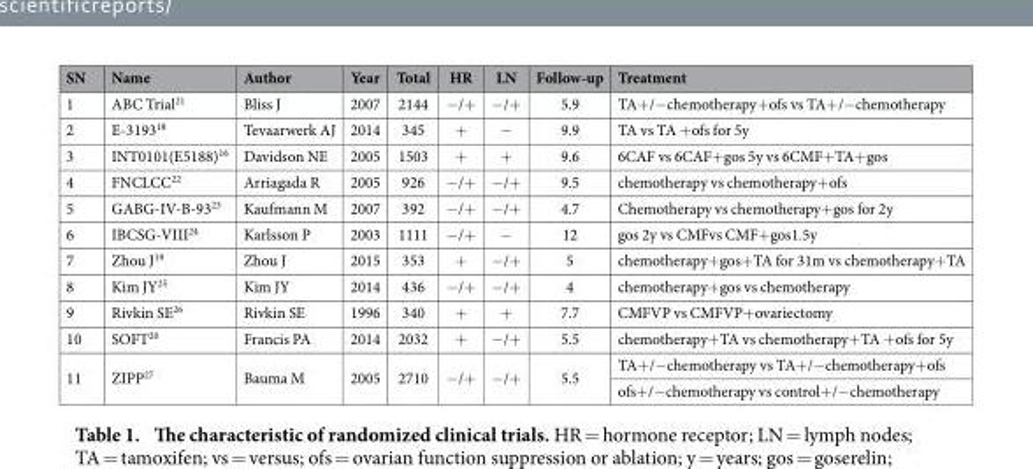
<table><thead><tr><td>SN</td><td>Name</td><td>Author</td><td>Year</td><td>Total</td><td>HR</td><td>LN</td><td>Follow-up</td><td>Treatment</td></tr></thead><tbody><tr><td>1</td><td>ABC Trial<sup>21</sup></td><td>Bliss J</td><td>2007</td><td>2144</td><td>− /+</td><td>− /+</td><td>5.9</td><td>TA+ /− chemotherapy+ ofs vs TA+ /− chemotherapy</td></tr><tr><td>2</td><td>E-3193<sup>18</sup></td><td>Tevaarwerk AJ</td><td>2014</td><td>345</td><td>+</td><td>−</td><td>9.9</td><td>TA vs TA + ofs for 5y</td></tr><tr><td>3</td><td>INT0101(E5188)<sup>16</sup></td><td>Davidson NE</td><td>2005</td><td>1503</td><td>+</td><td>+</td><td>9.6</td><td>6CAF vs 6CAF+ gos 5y vs 6CMF+ TA+ gos</td></tr><tr><td>4</td><td>FNCLCC<sup>22</sup></td><td>Arriagada R</td><td>2005</td><td>926</td><td>− /+</td><td>− /+</td><td>9.5</td><td>chemotherapy vs chemotherapy+ ofs</td></tr><tr><td>5</td><td>GABG-IV-B-93<sup>23</sup></td><td>Kaufmann M</td><td>2007</td><td>392</td><td>− /+</td><td>− /+</td><td>4.7</td><td>Chemotherapy vs chemotherapy+ gos for 2y</td></tr><tr><td>6</td><td>IBCSG-VIII<sup>24</sup></td><td>Karlsson P</td><td>2003</td><td>1111</td><td>− /+</td><td>−</td><td>12</td><td>gos 2y vs CMFvs CMF+ gos1.5y</td></tr><tr><td>7</td><td>Zhou J<sup>19</sup></td><td>Zhou J</td><td>2015</td><td>353</td><td>+</td><td>− /+</td><td>5</td><td>chemotherapy+ gos+ TA for 31m vs chemotherapy+ TA</td></tr><tr><td>8</td><td>Kim JY<sup>25</sup></td><td>Kim JY</td><td>2014</td><td>436</td><td>− /+</td><td>− /+</td><td>4</td><td>chemotherapy+ gos vs chemotherapy</td></tr><tr><td>9</td><td>Rivkin SE<sup>26</sup></td><td>Rivkin SE</td><td>1996</td><td>340</td><td>+</td><td>+</td><td>7.7</td><td>CMFVP vs CMFVP+ ovariectomy</td></tr><tr><td>10</td><td>SOFT<sup>20</sup></td><td>Francis PA</td><td>2014</td><td>2032</td><td>+</td><td>− /+</td><td>5.5</td><td>chemotherapy+ TA vs chemotherapy+ TA + ofs for 5y</td></tr><tr><td rowspan="2">11</td><td rowspan="2">ZIPP<sup>27</sup></td><td rowspan="2">Bauma M</td><td rowspan="2">2005</td><td rowspan="2">2710</td><td rowspan="2">− /+</td><td rowspan="2">− /+</td><td rowspan="2">5.5</td><td>TA+ /− chemotherapy vs TA+ /− chemotherapy+ ofs</td></tr><tr><td>ofs+ /− chemotherapy vs control+ /− chemotherapy</td></tr></tbody></table>